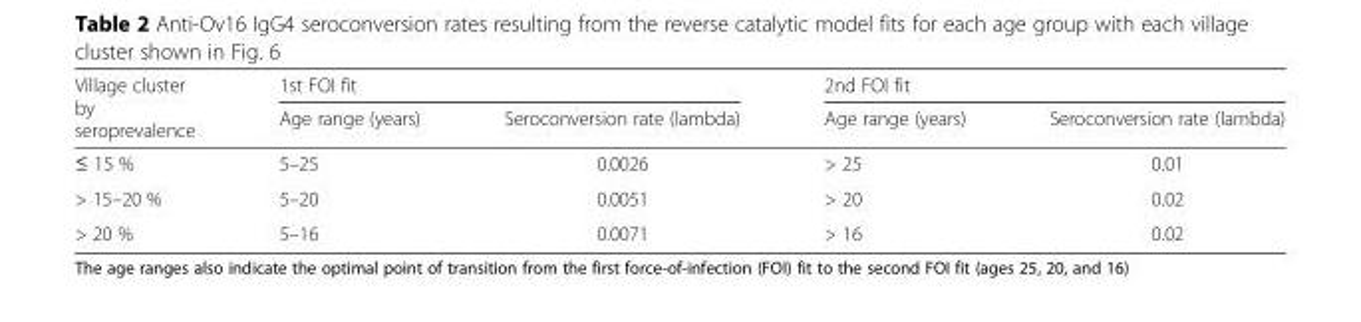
<table><thead><tr><td rowspan="2">Village cluster by seroprevalence</td><td colspan="2">1st FOI fit</td><td colspan="2">2nd FOI fit</td></tr><tr><td>Age range (years)</td><td>Seroconversion rate (lambda)</td><td>Age range (years)</td><td>Seroconversion rate (lambda)</td></tr></thead><tbody><tr><td>≤ 15 %</td><td>5–25</td><td>0.0026</td><td>&gt; 25</td><td>0.01</td></tr><tr><td>&gt; 15–20 %</td><td>5–20</td><td>0.0051</td><td>&gt; 20</td><td>0.02</td></tr><tr><td>&gt; 20 %</td><td>5–16</td><td>0.0071</td><td>&gt; 16</td><td>0.02</td></tr></tbody></table>